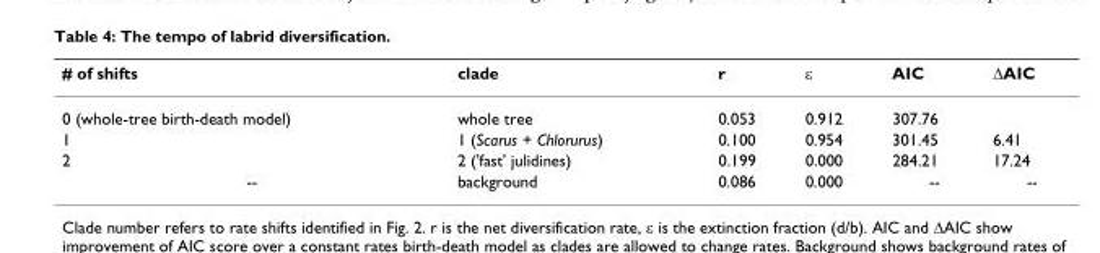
<table><thead><tr><td># of shifts</td><td>clade</td><td>r</td><td>ε</td><td>AIC</td><td>ΔAIC</td></tr></thead><tbody><tr><td>0 (whole-tree birth-death model)</td><td>whole tree</td><td>0.053</td><td>0.912</td><td>307.76</td><td></td></tr><tr><td>1</td><td>1 (Scarus + Chlorurus)</td><td>0.100</td><td>0.954</td><td>301.45</td><td>6.41</td></tr><tr><td>2</td><td>2 (&#x27;fast&#x27; julidines)</td><td>0.199</td><td>0.000</td><td>284.21</td><td>17.24</td></tr><tr><td>--</td><td>background</td><td>0.086</td><td>0.000</td><td>--</td><td>--</td></tr></tbody></table>